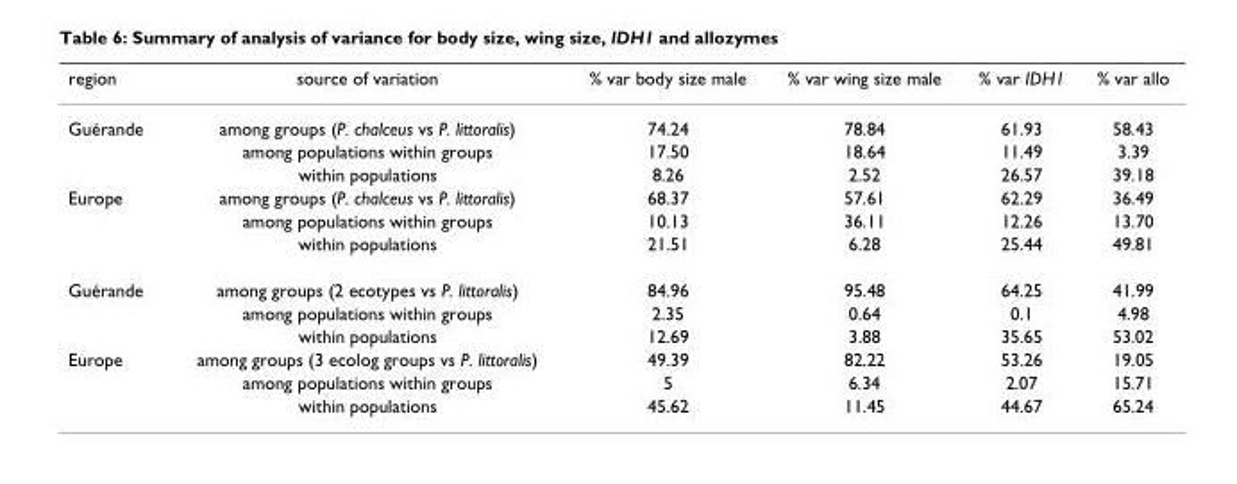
<table><thead><tr><td>region</td><td>source of variation</td><td>% var body size male</td><td>% var wing size male</td><td>% var IDH1</td><td>% var allo</td></tr></thead><tbody><tr><td rowspan="3">Guérande</td><td>among groups (P. chalceus vs P. littoralis)</td><td>74.24</td><td>78.84</td><td>61.93</td><td>58.43</td></tr><tr><td>among populations within groups</td><td>17.50</td><td>18.64</td><td>11.49</td><td>3.39</td></tr><tr><td>within populations</td><td>8.26</td><td>2.52</td><td>26.57</td><td>39.18</td></tr><tr><td rowspan="3">Europe</td><td>among groups (P. chalceus vs P. littoralis)</td><td>68.37</td><td>57.61</td><td>62.29</td><td>36.49</td></tr><tr><td>among populations within groups</td><td>10.13</td><td>36.11</td><td>12.26</td><td>13.70</td></tr><tr><td>within populations</td><td>21.51</td><td>6.28</td><td>25.44</td><td>49.81</td></tr><tr><td rowspan="3">Guérande</td><td>among groups (2 ecotypes vs P. littoralis)</td><td>84.96</td><td>95.48</td><td>64.25</td><td>41.99</td></tr><tr><td>among populations within groups</td><td>2.35</td><td>0.64</td><td>0.1</td><td>4.98</td></tr><tr><td>within populations</td><td>12.69</td><td>3.88</td><td>35.65</td><td>53.02</td></tr><tr><td rowspan="3">Europe</td><td>among groups (3 ecolog groups vs P. littoralis)</td><td>49.39</td><td>82.22</td><td>53.26</td><td>19.05</td></tr><tr><td>among populations within groups</td><td>5</td><td>6.34</td><td>2.07</td><td>15.71</td></tr><tr><td>within populations</td><td>45.62</td><td>11.45</td><td>44.67</td><td>65.24</td></tr></tbody></table>